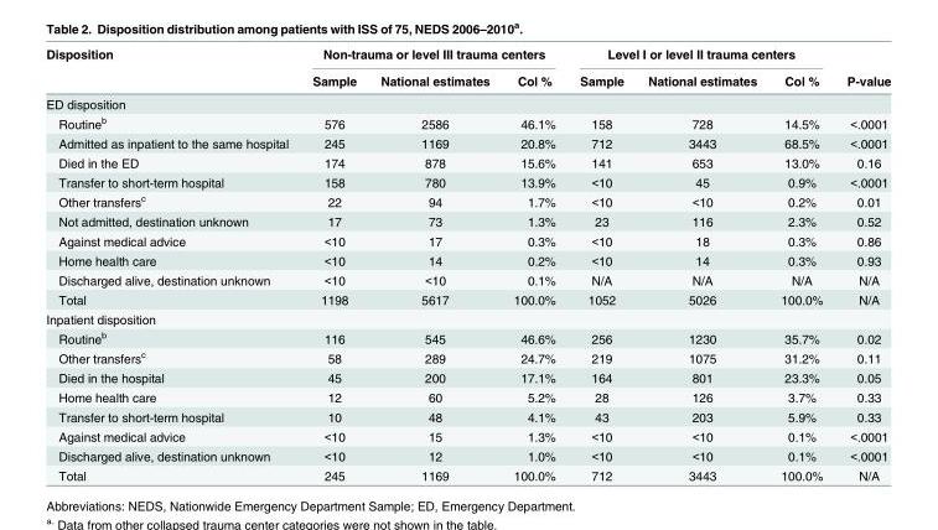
<table><thead><tr><td rowspan="2">Disposition</td><td colspan="3">Non-trauma or level III trauma centers</td><td colspan="3">Level I or level II trauma centers</td><td rowspan="2">P-value</td></tr><tr><td>Sample</td><td>National estimates</td><td>Col %</td><td>Sample</td><td>National estimates</td><td>Col %</td></tr></thead><tbody><tr><td colspan="8">ED disposition</td></tr><tr><td>Routine<sup>b</sup></td><td>576</td><td>2586</td><td>46.1%</td><td>158</td><td>728</td><td>14.5%</td><td>&lt;.0001</td></tr><tr><td>Admitted as inpatient to the same hospital</td><td>245</td><td>1169</td><td>20.8%</td><td>712</td><td>3443</td><td>68.5%</td><td>&lt;.0001</td></tr><tr><td>Died in the ED</td><td>174</td><td>878</td><td>15.6%</td><td>141</td><td>653</td><td>13.0%</td><td>0.16</td></tr><tr><td>Transfer to short-term hospital</td><td>158</td><td>780</td><td>13.9%</td><td>&lt;10</td><td>45</td><td>0.9%</td><td>&lt;.0001</td></tr><tr><td>Other transfers<sup>c</sup></td><td>22</td><td>94</td><td>1.7%</td><td>&lt;10</td><td>&lt;10</td><td>0.2%</td><td>0.01</td></tr><tr><td>Not admitted, destination unknown</td><td>17</td><td>73</td><td>1.3%</td><td>23</td><td>116</td><td>2.3%</td><td>0.52</td></tr><tr><td>Against medical advice</td><td>&lt;10</td><td>17</td><td>0.3%</td><td>&lt;10</td><td>18</td><td>0.3%</td><td>0.86</td></tr><tr><td>Home health care</td><td>&lt;10</td><td>14</td><td>0.2%</td><td>&lt;10</td><td>14</td><td>0.3%</td><td>0.93</td></tr><tr><td>Discharged alive, destination unknown</td><td>&lt;10</td><td>&lt;10</td><td>0.1%</td><td>N/A</td><td>N/A</td><td>N/A</td><td>N/A</td></tr><tr><td>Total</td><td>1198</td><td>5617</td><td>100.0%</td><td>1052</td><td>5026</td><td>100.0%</td><td>N/A</td></tr><tr><td colspan="8">Inpatient disposition</td></tr><tr><td>Routine<sup>b</sup></td><td>116</td><td>545</td><td>46.6%</td><td>256</td><td>1230</td><td>35.7%</td><td>0.02</td></tr><tr><td>Other transfers<sup>c</sup></td><td>58</td><td>289</td><td>24.7%</td><td>219</td><td>1075</td><td>31.2%</td><td>0.11</td></tr><tr><td>Died in the hospital</td><td>45</td><td>200</td><td>17.1%</td><td>164</td><td>801</td><td>23.3%</td><td>0.05</td></tr><tr><td>Home health care</td><td>12</td><td>60</td><td>5.2%</td><td>28</td><td>126</td><td>3.7%</td><td>0.33</td></tr><tr><td>Transfer to short-term hospital</td><td>10</td><td>48</td><td>4.1%</td><td>43</td><td>203</td><td>5.9%</td><td>0.33</td></tr><tr><td>Against medical advice</td><td>&lt;10</td><td>15</td><td>1.3%</td><td>&lt;10</td><td>&lt;10</td><td>0.1%</td><td>&lt;.0001</td></tr><tr><td>Discharged alive, destination unknown</td><td>&lt;10</td><td>12</td><td>1.0%</td><td>&lt;10</td><td>&lt;10</td><td>0.1%</td><td>&lt;.0001</td></tr><tr><td>Total</td><td>245</td><td>1169</td><td>100.0%</td><td>712</td><td>3443</td><td>100.0%</td><td>N/A</td></tr></tbody></table>